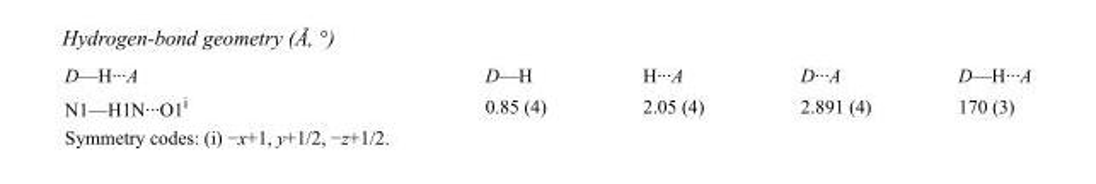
<table><tbody><tr><td>D—H···A</td><td>D—H</td><td>H···A</td><td>D···A</td><td>D—H···A</td></tr><tr><td>N1—H1N···O1<sup>i</sup></td><td>0.85 (4)</td><td>2.05 (4)</td><td>2.891 (4)</td><td>170 (3)</td></tr></tbody></table>